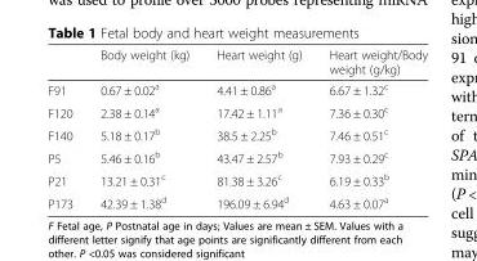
<table><thead><tr><td></td><td>Body weight (kg)</td><td>Heart weight (g)</td><td>Heart weight/Body weight (g/kg)</td></tr></thead><tbody><tr><td>F91</td><td>0.67 ± 0.02<sup>a</sup></td><td>4.41 ± 0.86<sup>a</sup></td><td>6.67 ± 1.32<sup>c</sup></td></tr><tr><td>F120</td><td>2.38 ± 0.14<sup>a</sup></td><td>17.42 ± 1.11<sup>a</sup></td><td>7.36 ± 0.30<sup>c</sup></td></tr><tr><td>F140</td><td>5.18 ± 0.17<sup>b</sup></td><td>38.5 ± 2.25<sup>b</sup></td><td>7.46 ± 0.51<sup>c</sup></td></tr><tr><td>P5</td><td>5.46 ± 0.16<sup>b</sup></td><td>43.47 ± 2.57<sup>b</sup></td><td>7.93 ± 0.29<sup>c</sup></td></tr><tr><td>P21</td><td>13.21 ± 0.31<sup>c</sup></td><td>81.38 ± 3.26<sup>c</sup></td><td>6.19 ± 0.33<sup>b</sup></td></tr><tr><td>P173</td><td>42.39 ± 1.38<sup>d</sup></td><td>196.09 ± 6.94<sup>d</sup></td><td>4.63 ± 0.07<sup>a</sup></td></tr></tbody></table>